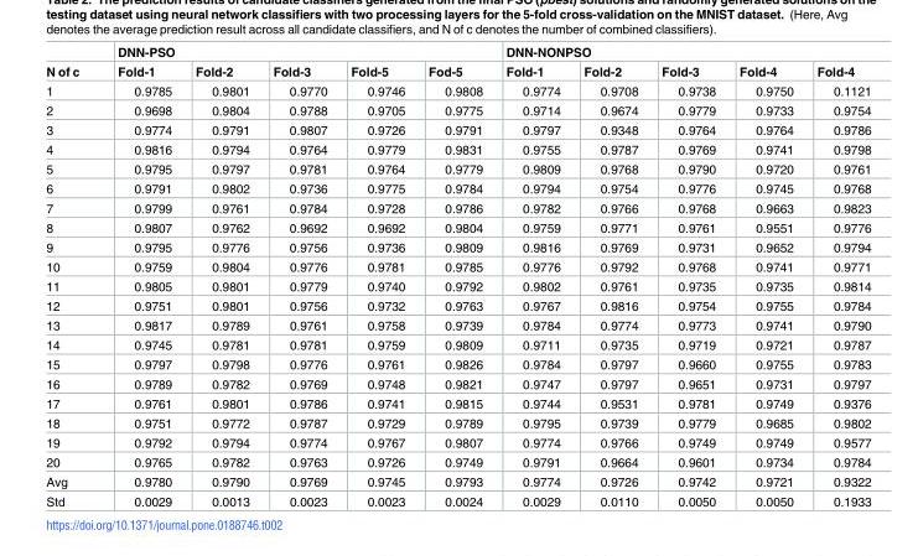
<table><thead><tr><td rowspan="2">N of c</td><td colspan="5">DNN-PSO</td><td colspan="5">DNN-NONPSO</td></tr><tr><td>Fold-1</td><td>Fold-2</td><td>Fold-3</td><td>Fold-5</td><td>Fod-5</td><td>Fold-1</td><td>Fold-2</td><td>Fold-3</td><td>Fold-4</td><td>Fold-4</td></tr></thead><tbody><tr><td>1</td><td>0.9785</td><td>0.9801</td><td>0.9770</td><td>0.9746</td><td>0.9808</td><td>0.9774</td><td>0.9708</td><td>0.9738</td><td>0.9750</td><td>0.1121</td></tr><tr><td>2</td><td>0.9698</td><td>0.9804</td><td>0.9788</td><td>0.9705</td><td>0.9775</td><td>0.9714</td><td>0.9674</td><td>0.9779</td><td>0.9733</td><td>0.9754</td></tr><tr><td>3</td><td>0.9774</td><td>0.9791</td><td>0.9807</td><td>0.9726</td><td>0.9791</td><td>0.9797</td><td>0.9348</td><td>0.9764</td><td>0.9764</td><td>0.9786</td></tr><tr><td>4</td><td>0.9816</td><td>0.9794</td><td>0.9764</td><td>0.9779</td><td>0.9831</td><td>0.9755</td><td>0.9787</td><td>0.9769</td><td>0.9741</td><td>0.9798</td></tr><tr><td>5</td><td>0.9795</td><td>0.9797</td><td>0.9781</td><td>0.9764</td><td>0.9779</td><td>0.9809</td><td>0.9768</td><td>0.9790</td><td>0.9720</td><td>0.9761</td></tr><tr><td>6</td><td>0.9791</td><td>0.9802</td><td>0.9736</td><td>0.9775</td><td>0.9784</td><td>0.9794</td><td>0.9754</td><td>0.9776</td><td>0.9745</td><td>0.9768</td></tr><tr><td>7</td><td>0.9799</td><td>0.9761</td><td>0.9784</td><td>0.9728</td><td>0.9786</td><td>0.9782</td><td>0.9766</td><td>0.9768</td><td>0.9663</td><td>0.9823</td></tr><tr><td>8</td><td>0.9807</td><td>0.9762</td><td>0.9692</td><td>0.9692</td><td>0.9804</td><td>0.9759</td><td>0.9771</td><td>0.9761</td><td>0.9551</td><td>0.9776</td></tr><tr><td>9</td><td>0.9795</td><td>0.9776</td><td>0.9756</td><td>0.9736</td><td>0.9809</td><td>0.9816</td><td>0.9769</td><td>0.9731</td><td>0.9652</td><td>0.9794</td></tr><tr><td>10</td><td>0.9759</td><td>0.9804</td><td>0.9776</td><td>0.9781</td><td>0.9785</td><td>0.9776</td><td>0.9792</td><td>0.9768</td><td>0.9741</td><td>0.9771</td></tr><tr><td>11</td><td>0.9805</td><td>0.9801</td><td>0.9779</td><td>0.9740</td><td>0.9792</td><td>0.9802</td><td>0.9761</td><td>0.9735</td><td>0.9735</td><td>0.9814</td></tr><tr><td>12</td><td>0.9751</td><td>0.9801</td><td>0.9756</td><td>0.9732</td><td>0.9763</td><td>0.9767</td><td>0.9816</td><td>0.9754</td><td>0.9755</td><td>0.9784</td></tr><tr><td>13</td><td>0.9817</td><td>0.9789</td><td>0.9761</td><td>0.9758</td><td>0.9739</td><td>0.9784</td><td>0.9774</td><td>0.9773</td><td>0.9741</td><td>0.9790</td></tr><tr><td>14</td><td>0.9745</td><td>0.9781</td><td>0.9781</td><td>0.9759</td><td>0.9809</td><td>0.9711</td><td>0.9735</td><td>0.9719</td><td>0.9721</td><td>0.9787</td></tr><tr><td>15</td><td>0.9797</td><td>0.9798</td><td>0.9776</td><td>0.9761</td><td>0.9826</td><td>0.9784</td><td>0.9797</td><td>0.9660</td><td>0.9755</td><td>0.9783</td></tr><tr><td>16</td><td>0.9789</td><td>0.9782</td><td>0.9769</td><td>0.9748</td><td>0.9821</td><td>0.9747</td><td>0.9797</td><td>0.9651</td><td>0.9731</td><td>0.9797</td></tr><tr><td>17</td><td>0.9761</td><td>0.9801</td><td>0.9786</td><td>0.9741</td><td>0.9815</td><td>0.9744</td><td>0.9531</td><td>0.9781</td><td>0.9749</td><td>0.9376</td></tr><tr><td>18</td><td>0.9751</td><td>0.9772</td><td>0.9787</td><td>0.9729</td><td>0.9789</td><td>0.9795</td><td>0.9739</td><td>0.9779</td><td>0.9685</td><td>0.9802</td></tr><tr><td>19</td><td>0.9792</td><td>0.9794</td><td>0.9774</td><td>0.9767</td><td>0.9807</td><td>0.9774</td><td>0.9766</td><td>0.9749</td><td>0.9749</td><td>0.9577</td></tr><tr><td>20</td><td>0.9765</td><td>0.9782</td><td>0.9763</td><td>0.9726</td><td>0.9749</td><td>0.9791</td><td>0.9664</td><td>0.9601</td><td>0.9734</td><td>0.9784</td></tr><tr><td>Avg</td><td>0.9780</td><td>0.9790</td><td>0.9769</td><td>0.9745</td><td>0.9793</td><td>0.9774</td><td>0.9726</td><td>0.9742</td><td>0.9721</td><td>0.9322</td></tr><tr><td>Std</td><td>0.0029</td><td>0.0013</td><td>0.0023</td><td>0.0023</td><td>0.0024</td><td>0.0029</td><td>0.0110</td><td>0.0050</td><td>0.0050</td><td>0.1933</td></tr></tbody></table>